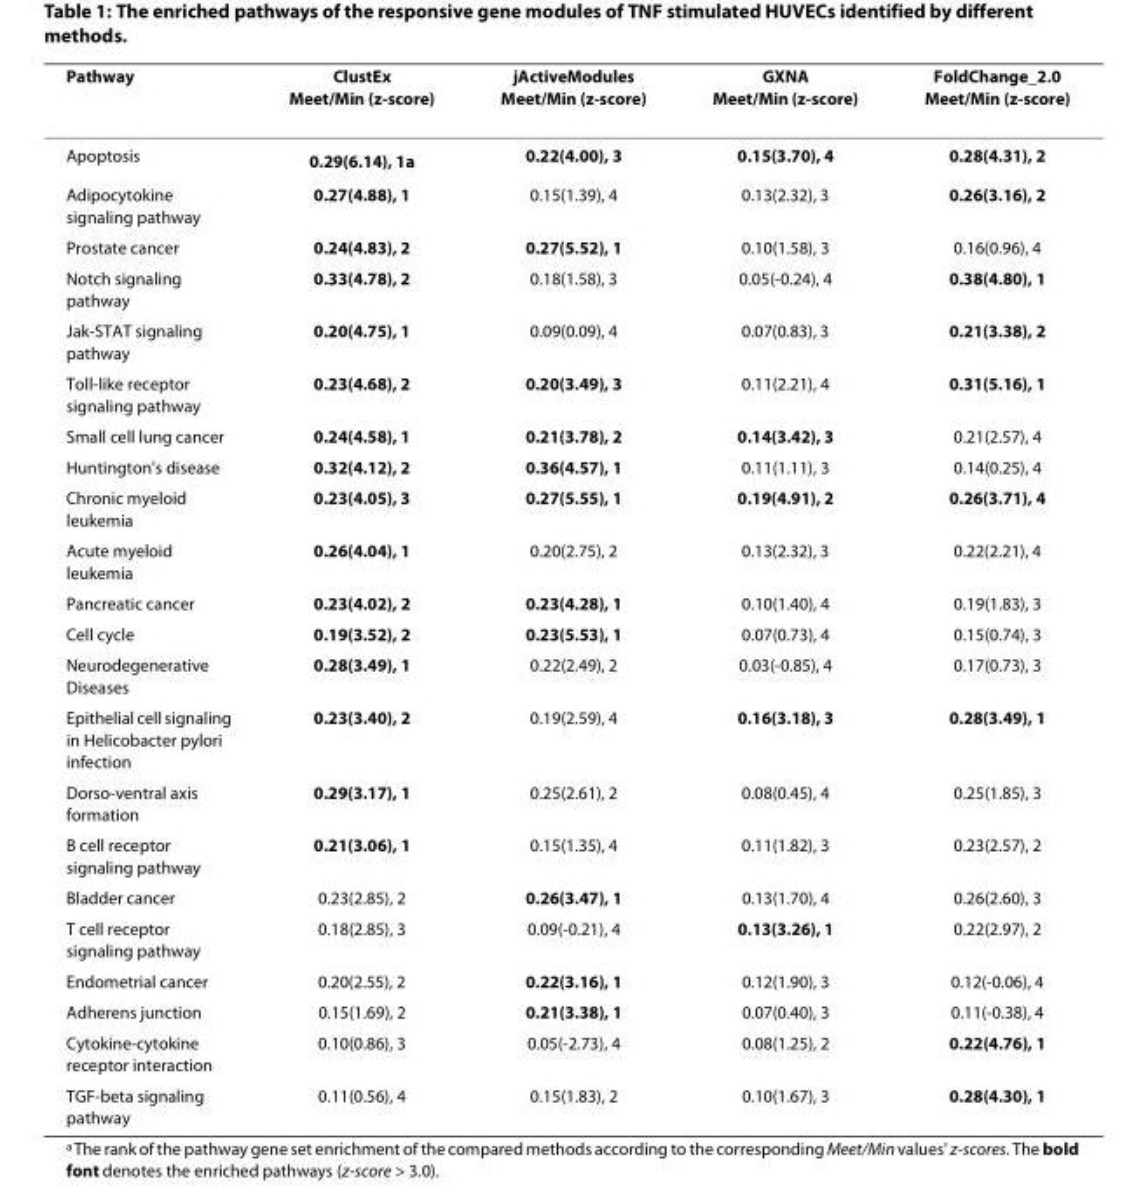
<table><thead><tr><td>Pathway</td><td>ClustEx Meet/Min (z-score)</td><td>jActiveModules Meet/Min (z-score)</td><td>GXNA Meet/Min (z-score)</td><td>FoldChange_2.0 Meet/Min (z-score)</td></tr></thead><tbody><tr><td>Apoptosis</td><td>0.29(6.14), 1<sup>a</sup></td><td>0.22(4.00), 3</td><td>0.15(3.70), 4</td><td>0.28(4.31), 2</td></tr><tr><td>Adipocytokine signaling pathway</td><td>0.27(4.88), 1</td><td>0.15(1.39), 4</td><td>0.13(2.32), 3</td><td>0.26(3.16), 2</td></tr><tr><td>Prostate cancer</td><td>0.24(4.83), 2</td><td>0.27(5.52), 1</td><td>0.10(1.58), 3</td><td>0.16(0.96), 4</td></tr><tr><td>Notch signaling pathway</td><td>0.33(4.78), 2</td><td>0.18(1.58), 3</td><td>0.05(-0.24), 4</td><td>0.38(4.80), 1</td></tr><tr><td>Jak-STAT signaling pathway</td><td>0.20(4.75), 1</td><td>0.09(0.09), 4</td><td>0.07(0.83), 3</td><td>0.21(3.38), 2</td></tr><tr><td>Toll-like receptor signaling pathway</td><td>0.23(4.68), 2</td><td>0.20(3.49), 3</td><td>0.11(2.21), 4</td><td>0.31(5.16), 1</td></tr><tr><td>Small cell lung cancer</td><td>0.24(4.58), 1</td><td>0.21(3.78), 2</td><td>0.14(3.42), 3</td><td>0.21(2.57), 4</td></tr><tr><td>Huntington&#x27;s disease</td><td>0.32(4.12), 2</td><td>0.36(4.57), 1</td><td>0.11(1.11), 3</td><td>0.14(0.25), 4</td></tr><tr><td>Chronic myeloid leukemia</td><td>0.23(4.05), 3</td><td>0.27(5.55), 1</td><td>0.19(4.91), 2</td><td>0.26(3.71), 4</td></tr><tr><td>Acute myeloid leukemia</td><td>0.26(4.04), 1</td><td>0.20(2.75), 2</td><td>0.13(2.32), 3</td><td>0.22(2.21), 4</td></tr><tr><td>Pancreatic cancer</td><td>0.23(4.02), 2</td><td>0.23(4.28), 1</td><td>0.10(1.40), 4</td><td>0.19(1.83), 3</td></tr><tr><td>Cell cycle</td><td>0.19(3.52), 2</td><td>0.23(5.53), 1</td><td>0.07(0.73), 4</td><td>0.15(0.74), 3</td></tr><tr><td>Neurodegenerative Diseases</td><td>0.28(3.49), 1</td><td>0.22(2.49), 2</td><td>0.03(-0.85), 4</td><td>0.17(0.73), 3</td></tr><tr><td>Epithelial cell signaling in Helicobacter pylori infection</td><td>0.23(3.40), 2</td><td>0.19(2.59), 4</td><td>0.16(3.18), 3</td><td>0.28(3.49), 1</td></tr><tr><td>Dorso-ventral axis formation</td><td>0.29(3.17), 1</td><td>0.25(2.61), 2</td><td>0.08(0.45), 4</td><td>0.25(1.85), 3</td></tr><tr><td>B cell receptor signaling pathway</td><td>0.21(3.06), 1</td><td>0.15(1.35), 4</td><td>0.11(1.82), 3</td><td>0.23(2.57), 2</td></tr><tr><td>Bladder cancer</td><td>0.23(2.85), 2</td><td>0.26(3.47), 1</td><td>0.13(1.70), 4</td><td>0.26(2.60), 3</td></tr><tr><td>T cell receptor signaling pathway</td><td>0.18(2.85), 3</td><td>0.09(-0.21), 4</td><td>0.13(3.26), 1</td><td>0.22(2.97), 2</td></tr><tr><td>Endometrial cancer</td><td>0.20(2.55), 2</td><td>0.22(3.16), 1</td><td>0.12(1.90), 3</td><td>0.12(-0.06), 4</td></tr><tr><td>Adherens junction</td><td>0.15(1.69), 2</td><td>0.21(3.38), 1</td><td>0.07(0.40), 3</td><td>0.11(-0.38), 4</td></tr><tr><td>Cytokine-cytokine receptor interaction</td><td>0.10(0.86), 3</td><td>0.05(-2.73), 4</td><td>0.08(1.25), 2</td><td>0.22(4.76), 1</td></tr><tr><td>TGF-beta signaling pathway</td><td>0.11(0.56), 4</td><td>0.15(1.83), 2</td><td>0.10(1.67), 3</td><td>0.28(4.30), 1</td></tr></tbody></table>